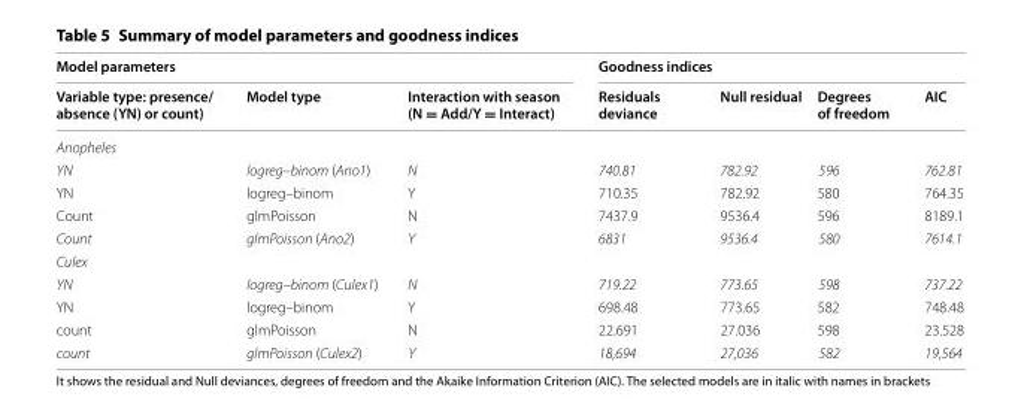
<table><thead><tr><td colspan="3">Model parameters</td><td colspan="4">Goodness indices</td></tr><tr><td>Variable type: presence/ absence (YN) or count)</td><td>Model type</td><td>Interaction with season (N = Add/Y = Interact)</td><td>Residuals deviance</td><td>Null residual</td><td>Degrees of freedom</td><td>AIC</td></tr></thead><tbody><tr><td colspan="7">Anopheles</td></tr><tr><td>YN</td><td>logreg–binom (Ano1)</td><td>N</td><td>740.81</td><td>782.92</td><td>596</td><td>762.81</td></tr><tr><td>YN</td><td>logreg–binom</td><td>Y</td><td>710.35</td><td>782.92</td><td>580</td><td>764.35</td></tr><tr><td>Count</td><td>glmPoisson</td><td>N</td><td>7437.9</td><td>9536.4</td><td>596</td><td>8189.1</td></tr><tr><td>Count</td><td>glmPoisson (Ano2)</td><td>Y</td><td>6831</td><td>9536.4</td><td>580</td><td>7614.1</td></tr><tr><td colspan="7">Culex</td></tr><tr><td>YN</td><td>logreg–binom (Culex1)</td><td>N</td><td>719.22</td><td>773.65</td><td>598</td><td>737.22</td></tr><tr><td>YN</td><td>logreg–binom</td><td>Y</td><td>698.48</td><td>773.65</td><td>582</td><td>748.48</td></tr><tr><td>count</td><td>glmPoisson</td><td>N</td><td>22.691</td><td>27.036</td><td>598</td><td>23.528</td></tr><tr><td>count</td><td>glmPoisson (Culex2)</td><td>Y</td><td>18,694</td><td>27,036</td><td>582</td><td>19,564</td></tr></tbody></table>